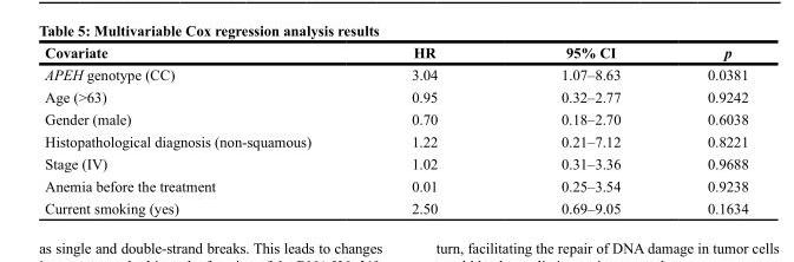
<table><thead><tr><td>Covariate</td><td>HR</td><td>95% CI</td><td>p</td></tr></thead><tbody><tr><td>APEH genotype (CC)</td><td>3.04</td><td>1.07–8.63</td><td>0.0381</td></tr><tr><td>Age (&gt;63)</td><td>0.95</td><td>0.32–2.77</td><td>0.9242</td></tr><tr><td>Gender (male)</td><td>0.70</td><td>0.18–2.70</td><td>0.6038</td></tr><tr><td>Histopathological diagnosis (non-squamous)</td><td>1.22</td><td>0.21–7.12</td><td>0.8221</td></tr><tr><td>Stage (IV)</td><td>1.02</td><td>0.31–3.36</td><td>0.9688</td></tr><tr><td>Anemia before the treatment</td><td>0.01</td><td>0.25–3.54</td><td>0.9238</td></tr><tr><td>Current smoking (yes)</td><td>2.50</td><td>0.69–9.05</td><td>0.1634</td></tr></tbody></table>